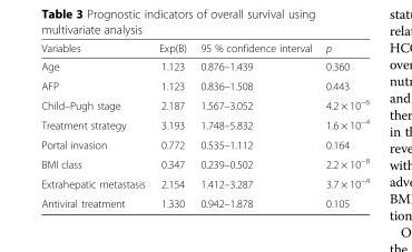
<table><thead><tr><td>Variables</td><td>Exp(B)</td><td>95 % confidence interval</td><td>p</td></tr></thead><tbody><tr><td>Age</td><td>1.123</td><td>0.876–1.439</td><td>0.360</td></tr><tr><td>AFP</td><td>1.123</td><td>0.836–1.508</td><td>0.443</td></tr><tr><td>Child–Pugh stage</td><td>2.187</td><td>1.567–3.052</td><td>4.2 × 10<sup>−6</sup></td></tr><tr><td>Treatment strategy</td><td>3.193</td><td>1.748–5.832</td><td>1.6 × 10<sup>−4</sup></td></tr><tr><td>Portal invasion</td><td>0.772</td><td>0.535–1.112</td><td>0.164</td></tr><tr><td>BMI class</td><td>0.347</td><td>0.239–0.502</td><td>2.2 × 10<sup>−8</sup></td></tr><tr><td>Extrahepatic metastasis</td><td>2.154</td><td>1.412–3.287</td><td>3.7 × 10<sup>−4</sup></td></tr><tr><td>Antiviral treatment</td><td>1.330</td><td>0.942–1.878</td><td>0.105</td></tr></tbody></table>